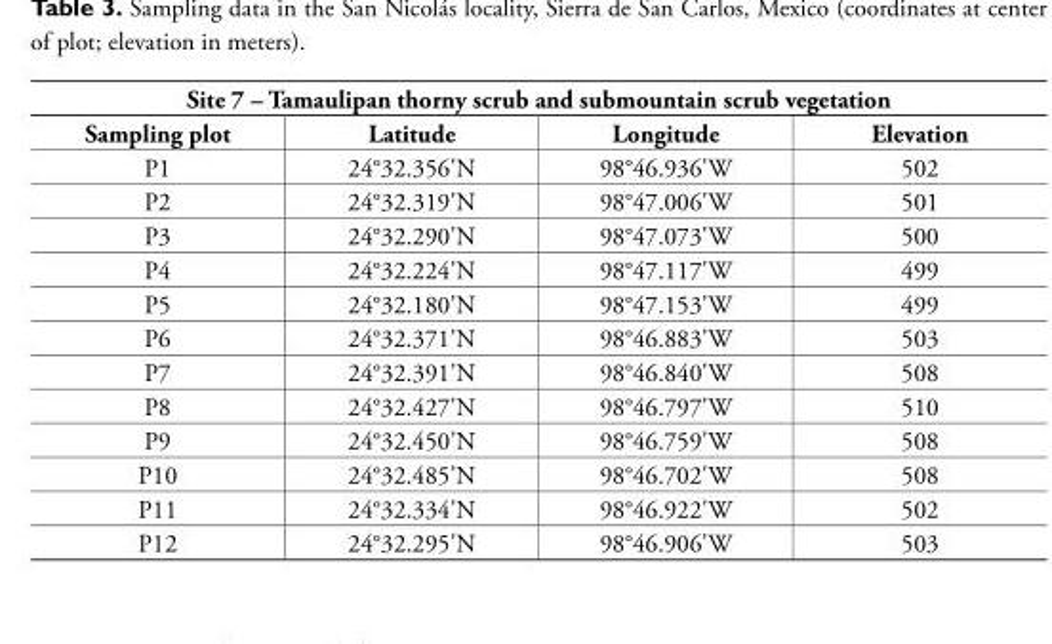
<table><thead><tr><td colspan="4">Site 7 – Tamaulipan thorny scrub and submountain scrub vegetation</td></tr><tr><td>Sampling plot</td><td>Latitude</td><td>Longitude</td><td>Elevation</td></tr></thead><tbody><tr><td>P1</td><td>24°32.356&#x27;N</td><td>98°46.936&#x27;W</td><td>502</td></tr><tr><td>P2</td><td>24°32.319&#x27;N</td><td>98°47.006&#x27;W</td><td>501</td></tr><tr><td>P3</td><td>24°32.290&#x27;N</td><td>98°47.073&#x27;W</td><td>500</td></tr><tr><td>P4</td><td>24°32.224&#x27;N</td><td>98°47.117&#x27;W</td><td>499</td></tr><tr><td>P5</td><td>24°32.180&#x27;N</td><td>98°47.153&#x27;W</td><td>499</td></tr><tr><td>P6</td><td>24°32.371&#x27;N</td><td>98°46.883&#x27;W</td><td>503</td></tr><tr><td>P7</td><td>24°32.391&#x27;N</td><td>98°46.840&#x27;W</td><td>508</td></tr><tr><td>P8</td><td>24°32.427&#x27;N</td><td>98°46.797&#x27;W</td><td>510</td></tr><tr><td>P9</td><td>24°32.450&#x27;N</td><td>98°46.759&#x27;W</td><td>508</td></tr><tr><td>P10</td><td>24°32.485&#x27;N</td><td>98°46.702&#x27;W</td><td>508</td></tr><tr><td>P11</td><td>24°32.334&#x27;N</td><td>98°46.922&#x27;W</td><td>502</td></tr><tr><td>P12</td><td>24°32.295&#x27;N</td><td>98°46.906&#x27;W</td><td>503</td></tr></tbody></table>